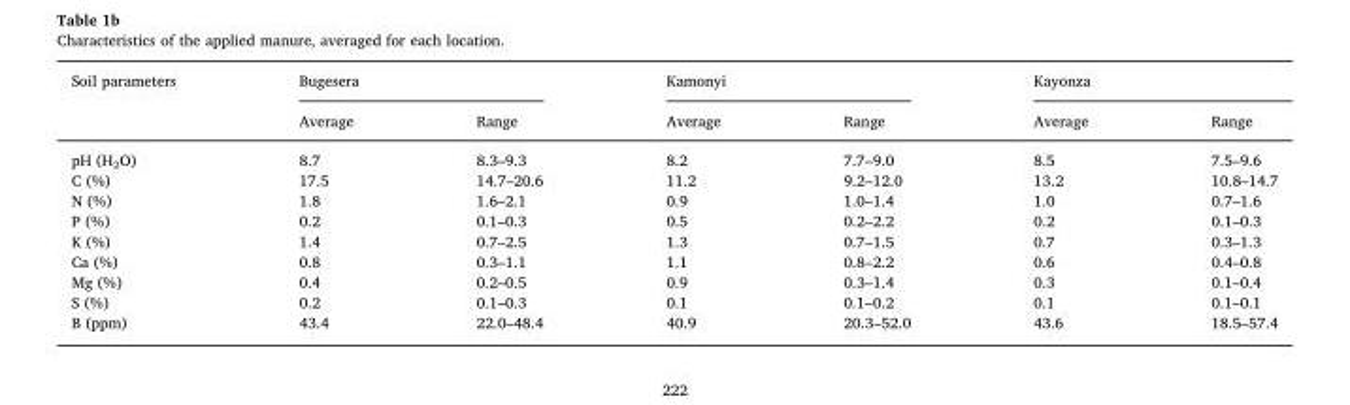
<table><thead><tr><td rowspan="2">Soil parameters</td><td colspan="2">Bugesera</td><td colspan="2">Kamonyi</td><td colspan="2">Kayonza</td></tr><tr><td>Average</td><td>Range</td><td>Average</td><td>Range</td><td>Average</td><td>Range</td></tr></thead><tbody><tr><td>pH (H<sub>2</sub>O)</td><td>8.7</td><td>8.3–9.3</td><td>8.2</td><td>7.7–9.0</td><td>8.5</td><td>7.5–9.6</td></tr><tr><td>C (%)</td><td>17.5</td><td>14.7–20.6</td><td>11.2</td><td>9.2–12.0</td><td>13.2</td><td>10.8–14.7</td></tr><tr><td>N (%)</td><td>1.8</td><td>1.6–2.1</td><td>0.9</td><td>1.0–1.4</td><td>1.0</td><td>0.7–1.6</td></tr><tr><td>P (%)</td><td>0.2</td><td>0.1–0.3</td><td>0.5</td><td>0.2–2.2</td><td>0.2</td><td>0.1–0.3</td></tr><tr><td>K (%)</td><td>1.4</td><td>0.7–2.5</td><td>1.3</td><td>0.7–1.5</td><td>0.7</td><td>0.3–1.3</td></tr><tr><td>Ca (%)</td><td>0.8</td><td>0.3–1.1</td><td>1.1</td><td>0.8–2.2</td><td>0.6</td><td>0.4–0.8</td></tr><tr><td>Mg (%)</td><td>0.4</td><td>0.2–0.5</td><td>0.9</td><td>0.3–1.4</td><td>0.3</td><td>0.1–0.4</td></tr><tr><td>S (%)</td><td>0.2</td><td>0.1–0.3</td><td>0.1</td><td>0.1–0.2</td><td>0.1</td><td>0.1–0.1</td></tr><tr><td>B (ppm)</td><td>43.4</td><td>22.0–48.4</td><td>40.9</td><td>20.3–52.0</td><td>43.6</td><td>18.5–57.4</td></tr></tbody></table>